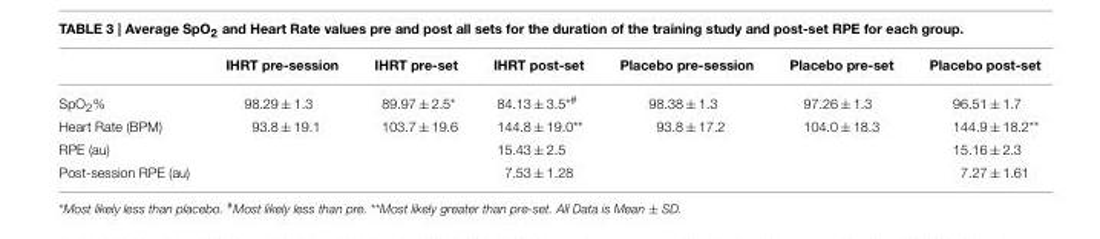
<table><thead><tr><td></td><td>IHRT pre-session</td><td>IHRT pre-set</td><td>IHRT post-set</td><td>Placebo pre-session</td><td>Placebo pre-set</td><td>Placebo post-set</td></tr></thead><tbody><tr><td>SpO<sub>2</sub>%</td><td>98.29 ± 1.3</td><td>89.97 ± 2.5*</td><td>84.13 ± 3.5<sup>*#</sup></td><td>98.38 ± 1.3</td><td>97.26 ± 1.3</td><td>96.51 ± 1.7</td></tr><tr><td>Heart Rate (BPM)</td><td>93.8 ± 19.1</td><td>103.7 ± 19.6</td><td>144.8 ± 19.0**</td><td>93.8 ± 17.2</td><td>104.0 ± 18.3</td><td>144.9 ± 18.2**</td></tr><tr><td>RPE (au)</td><td></td><td></td><td>15.43 ± 2.5</td><td></td><td></td><td>15.16 ± 2.3</td></tr><tr><td>Post-session RPE (au)</td><td></td><td></td><td>7.53 ± 1.28</td><td></td><td></td><td>7.27 ± 1.61</td></tr></tbody></table>